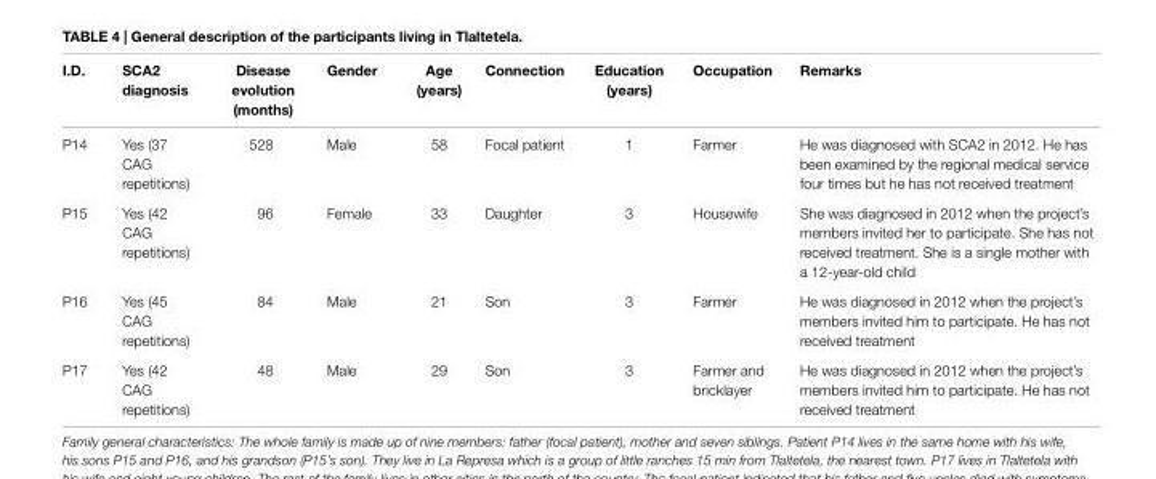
<table><thead><tr><td>i.D.</td><td>sca2 diagnosis</td><td>Disease evolution (months)</td><td>gender</td><td>age (years)</td><td>connection</td><td>education (years)</td><td>Occupation</td><td>remarks</td></tr></thead><tbody><tr><td>P14</td><td>Yes (37 CAG repetitions)</td><td>528</td><td>Male</td><td>58</td><td>Focal patient</td><td>1</td><td>Farmer</td><td>He was diagnosed with SCA2 in 2012. He has been examined by the regional medical service four times but he has not received treatment</td></tr><tr><td>P15</td><td>Yes (42 CAG repetitions)</td><td>96</td><td>Female</td><td>33</td><td>Daughter</td><td>3</td><td>Housewife</td><td>She was diagnosed in 2012 when the project’s members invited her to participate. She has not received treatment. She is a single mother with a 12-year-old child</td></tr><tr><td>P16</td><td>Yes (45 CAG repetitions)</td><td>84</td><td>Male</td><td>21</td><td>Son</td><td>3</td><td>Farmer</td><td>He was diagnosed in 2012 when the project’s members invited him to participate. He has not received treatment</td></tr><tr><td>P17</td><td>Yes (42 CAG repetitions)</td><td>48</td><td>Male</td><td>29</td><td>Son</td><td>3</td><td>Farmer and bricklayer</td><td>He was diagnosed in 2012 when the project’s members invited him to participate. He has not received treatment</td></tr></tbody></table>